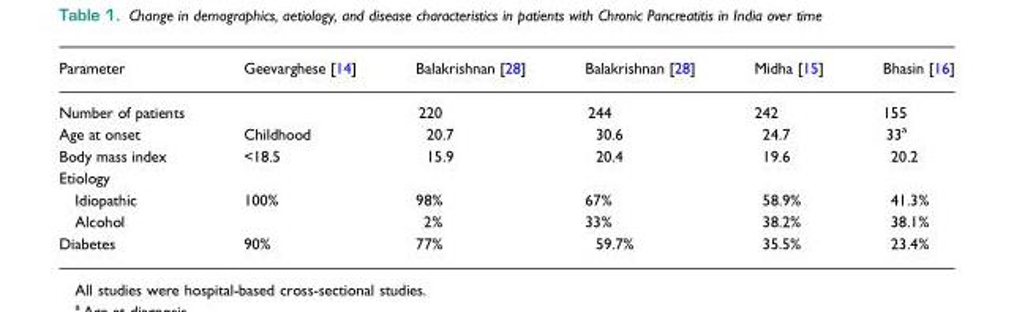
<table><thead><tr><td>Parameter</td><td>Geevarghese [14]</td><td>Balakrishnan [28]</td><td>Balakrishnan [28]</td><td>Midha [15]</td><td>Bhasin [16]</td></tr></thead><tbody><tr><td>Number of patients</td><td></td><td>220</td><td>244</td><td>242</td><td>155</td></tr><tr><td>Age at onset</td><td>Childhood</td><td>20.7</td><td>30.6</td><td>24.7</td><td>33<sup>a</sup></td></tr><tr><td>Body mass index</td><td>&lt;18.5</td><td>15.9</td><td>20.4</td><td>19.6</td><td>20.2</td></tr><tr><td colspan="6">Etiology</td></tr><tr><td>Idiopathic</td><td>100%</td><td>98%</td><td>67%</td><td>58.9%</td><td>41.3%</td></tr><tr><td>Alcohol</td><td></td><td>2%</td><td>33%</td><td>38.2%</td><td>38.1%</td></tr><tr><td>Diabetes</td><td>90%</td><td>77%</td><td>59.7%</td><td>35.5%</td><td>23.4%</td></tr></tbody></table>